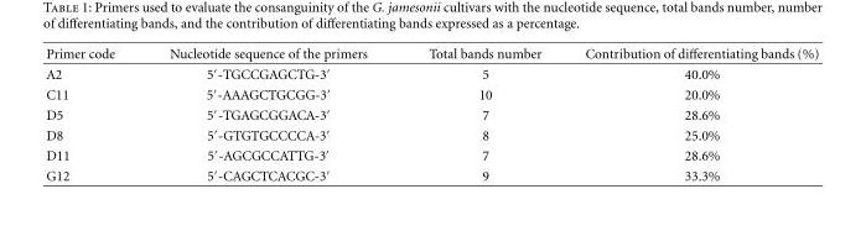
<table><thead><tr><td>Primer code</td><td>Nucleotide sequence of the primers</td><td>Total bands number</td><td>Contribution of differentiating bands (%)</td></tr></thead><tbody><tr><td>A2</td><td>5′-TGCCGAGCTG-3′</td><td>5</td><td>40.0%</td></tr><tr><td>C11</td><td>5′-AAAGCTGCGG-3′</td><td>10</td><td>20.0%</td></tr><tr><td>D5</td><td>5′-TGAGCGGACA-3′</td><td>7</td><td>28.6%</td></tr><tr><td>D8</td><td>5′-GTGTGCCCCA-3′</td><td>8</td><td>25.0%</td></tr><tr><td>D11</td><td>5′-AGCGCCATTG-3′</td><td>7</td><td>28.6%</td></tr><tr><td>G12</td><td>5′-CAGCTCACGC-3′</td><td>9</td><td>33.3%</td></tr></tbody></table>